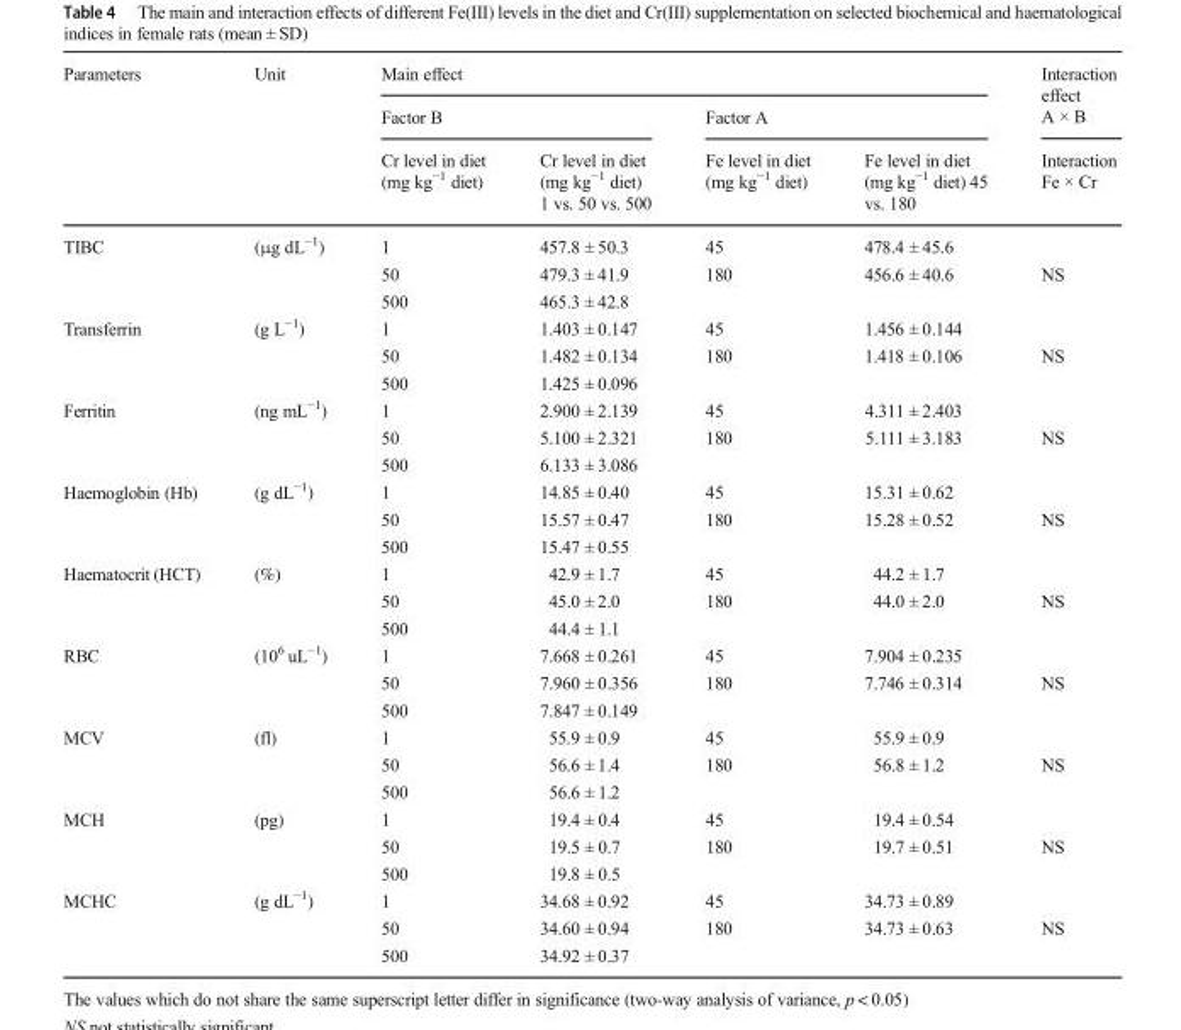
<table><thead><tr><td rowspan="3">Parameters</td><td rowspan="3">Unit</td><td colspan="4">Main effect</td><td rowspan="3">Interaction effect A × B Interaction Fe × Cr</td></tr><tr><td colspan="2">Factor B</td><td colspan="2">Factor A</td></tr><tr><td>Cr level in diet (mg kg<sup>−1</sup> diet)</td><td>Cr level in diet (mg kg<sup>−1</sup> diet) 1 vs. 50 vs. 500</td><td>Fe level in diet (mg kg<sup>−1</sup> diet)</td><td>Fe level in diet (mg kg<sup>−1</sup> diet) 45 vs. 180</td></tr></thead><tbody><tr><td rowspan="3">TIBC</td><td rowspan="3">(μg dL<sup>−1</sup>)</td><td>1</td><td>457.8 ± 50.3</td><td>45</td><td>478.4 ± 45.6</td><td></td></tr><tr><td>50</td><td>479.3 ± 41.9</td><td>180</td><td>456.6 ± 40.6</td><td>NS</td></tr><tr><td>500</td><td>465.3 ± 42.8</td><td></td><td></td><td></td></tr><tr><td rowspan="3">Transferrin</td><td rowspan="3">(g L<sup>−1</sup>)</td><td>1</td><td>1.403 ± 0.147</td><td>45</td><td>1.456 ± 0.144</td><td></td></tr><tr><td>50</td><td>1.482 ± 0.134</td><td>180</td><td>1.418 ± 0.106</td><td>NS</td></tr><tr><td>500</td><td>1.425 ± 0.096</td><td></td><td></td><td></td></tr><tr><td rowspan="3">Ferritin</td><td rowspan="3">(ng mL<sup>−1</sup>)</td><td>1</td><td>2.900 ± 2.139</td><td>45</td><td>4.311 ± 2.403</td><td></td></tr><tr><td>50</td><td>5.100 ± 2.321</td><td>180</td><td>5.111 ± 3.183</td><td>NS</td></tr><tr><td>500</td><td>6.133 ± 3.086</td><td></td><td></td><td></td></tr><tr><td rowspan="3">Haemoglobin (Hb)</td><td rowspan="3">(g dL<sup>−1</sup>)</td><td>1</td><td>14.85 ± 0.40</td><td>45</td><td>15.31 ± 0.62</td><td></td></tr><tr><td>50</td><td>15.57 ± 0.47</td><td>180</td><td>15.28 ± 0.52</td><td>NS</td></tr><tr><td>500</td><td>15.47 ± 0.55</td><td></td><td></td><td></td></tr><tr><td rowspan="3">Haematocrit (HCT)</td><td rowspan="3">(%)</td><td>1</td><td>42.9 ± 1.7</td><td>45</td><td>44.2 ± 1.7</td><td></td></tr><tr><td>50</td><td>45.0 ± 2.0</td><td>180</td><td>44.0 ± 2.0</td><td>NS</td></tr><tr><td>500</td><td>44.4 ± 1.1</td><td></td><td></td><td></td></tr><tr><td rowspan="3">RBC</td><td rowspan="3">(10<sup>6</sup> uL<sup>−1</sup>)</td><td>1</td><td>7.668 ± 0.261</td><td>45</td><td>7.904 ± 0.235</td><td></td></tr><tr><td>50</td><td>7.960 ± 0.356</td><td>180</td><td>7.746 ± 0.314</td><td>NS</td></tr><tr><td>500</td><td>7.847 ± 0.149</td><td></td><td></td><td></td></tr><tr><td rowspan="3">MCV</td><td rowspan="3">(fl)</td><td>1</td><td>55.9 ± 0.9</td><td>45</td><td>55.9 ± 0.9</td><td></td></tr><tr><td>50</td><td>56.6 ± 1.4</td><td>180</td><td>56.8 ± 1.2</td><td>NS</td></tr><tr><td>500</td><td>56.6 ± 1.2</td><td></td><td></td><td></td></tr><tr><td rowspan="3">MCH</td><td rowspan="3">(pg)</td><td>1</td><td>19.4 ± 0.4</td><td>45</td><td>19.4 ± 0.54</td><td></td></tr><tr><td>50</td><td>19.5 ± 0.7</td><td>180</td><td>19.7 ± 0.51</td><td>NS</td></tr><tr><td>500</td><td>19.8 ± 0.5</td><td></td><td></td><td></td></tr><tr><td rowspan="3">MCHC</td><td rowspan="3">(g dL<sup>−1</sup>)</td><td>1</td><td>34.68 ± 0.92</td><td>45</td><td>34.73 ± 0.89</td><td></td></tr><tr><td>50</td><td>34.60 ± 0.94</td><td>180</td><td>34.73 ± 0.63</td><td>NS</td></tr><tr><td>500</td><td>34.92 ± 0.37</td><td></td><td></td><td></td></tr></tbody></table>